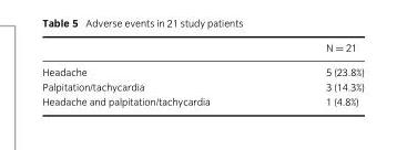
<table><thead><tr><td></td><td>N = 21</td></tr></thead><tbody><tr><td>Headache</td><td>5 (23.8%)</td></tr><tr><td>Palpitation/tachycardia</td><td>3 (14.3%)</td></tr><tr><td>Headache and palpitation/tachycardia</td><td>1 (4.8%)</td></tr></tbody></table>